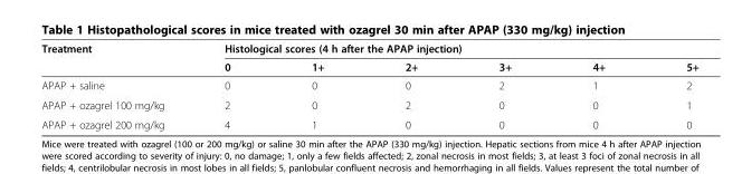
<table><thead><tr><td rowspan="2">Treatment</td><td colspan="6">Histological scores (4 h after the APAP injection)</td></tr><tr><td>0</td><td>1+</td><td>2+</td><td>3+</td><td>4+</td><td>5+</td></tr></thead><tbody><tr><td>APAP + saline</td><td>0</td><td>0</td><td>0</td><td>2</td><td>1</td><td>2</td></tr><tr><td>APAP + ozagrel 100 mg/kg</td><td>2</td><td>0</td><td>2</td><td>0</td><td>0</td><td>1</td></tr><tr><td>APAP + ozagrel 200 mg/kg</td><td>4</td><td>1</td><td>0</td><td>0</td><td>0</td><td>0</td></tr></tbody></table>